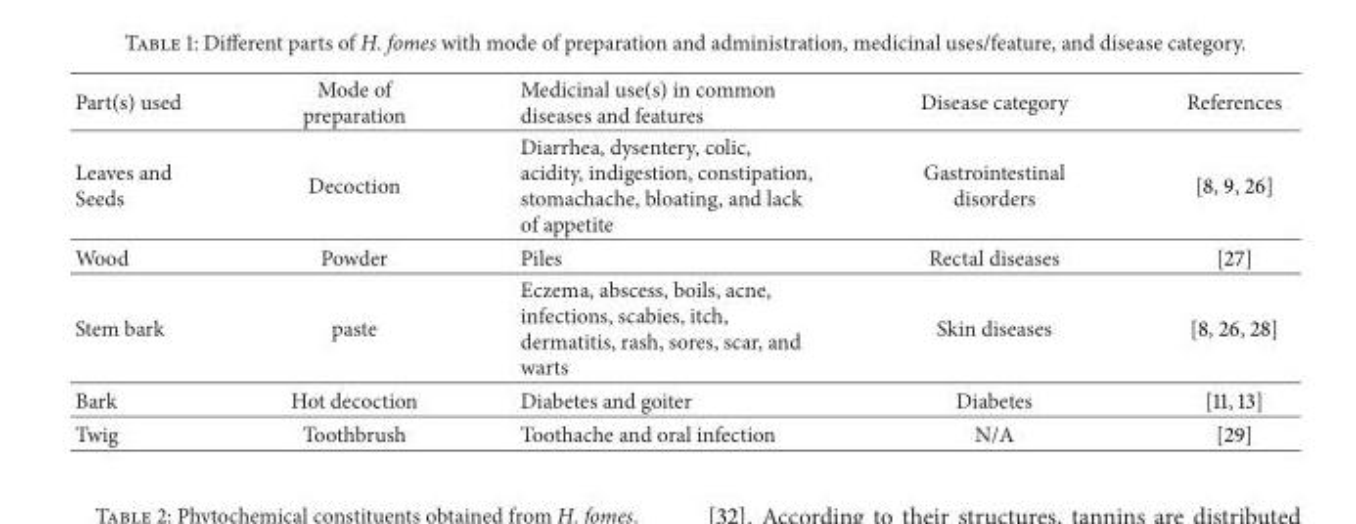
<table><thead><tr><td>Part(s) used</td><td>Mode of preparation</td><td>Medicinal use(s) in common diseases and features</td><td>Disease category</td><td>References</td></tr></thead><tbody><tr><td>Leaves and Seeds</td><td>Decoction</td><td>Diarrhea, dysentery, colic, acidity, indigestion, constipation, stomachache, bloating, and lack of appetite</td><td>Gastrointestinal disorders</td><td>[8, 9, 26]</td></tr><tr><td>Wood</td><td>Powder</td><td>Piles</td><td>Rectal diseases</td><td>[27]</td></tr><tr><td>Stem bark</td><td>paste</td><td>Eczema, abscess, boils, acne, infections, scabies, itch, dermatitis, rash, sores, scar, and warts</td><td>Skin diseases</td><td>[8, 26, 28]</td></tr><tr><td>Bark</td><td>Hot decoction</td><td>Diabetes and goiter</td><td>Diabetes</td><td>[11, 13]</td></tr><tr><td>Twig</td><td>Toothbrush</td><td>Toothache and oral infection</td><td>N/A</td><td>[29]</td></tr></tbody></table>